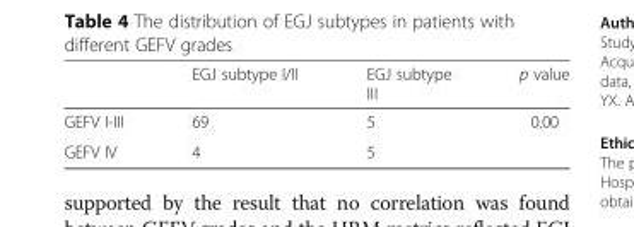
<table><thead><tr><td></td><td>EGJ subtype I/II</td><td>EGJ subtype III</td><td>p value</td></tr></thead><tbody><tr><td>GEFV I-III</td><td>69</td><td>5</td><td>0.00</td></tr><tr><td>GEFV IV</td><td>4</td><td>5</td><td></td></tr></tbody></table>